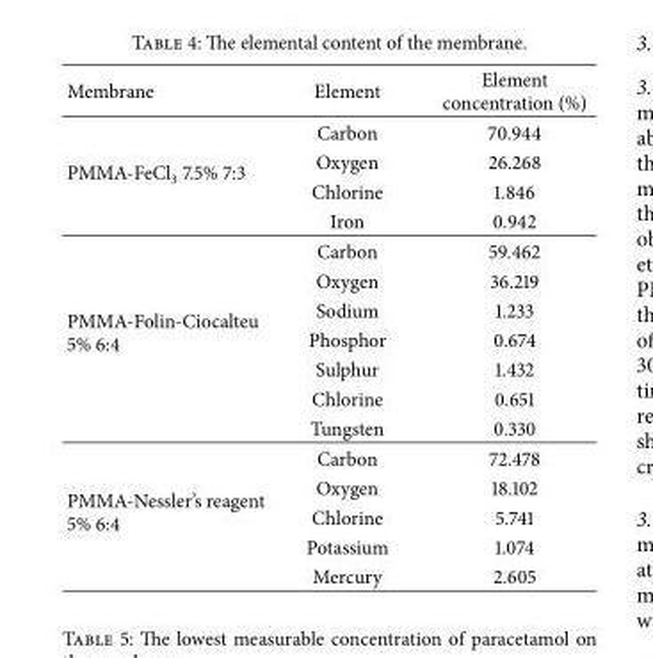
<table><thead><tr><td>Membrane</td><td>Element</td><td>Element concentration (%)</td></tr></thead><tbody><tr><td rowspan="4">PMMA-FeCl<sub>3</sub> 7.5% 7:3</td><td>Carbon</td><td>70.944</td></tr><tr><td>Oxygen</td><td>26.268</td></tr><tr><td>Chlorine</td><td>1.846</td></tr><tr><td>Iron</td><td>0.942</td></tr><tr><td rowspan="7">PMMA-Folin-Ciocalteu 5% 6:4</td><td>Carbon</td><td>59.462</td></tr><tr><td>Oxygen</td><td>36.219</td></tr><tr><td>Sodium</td><td>1.233</td></tr><tr><td>Phosphor</td><td>0.674</td></tr><tr><td>Sulphur</td><td>1.432</td></tr><tr><td>Chlorine</td><td>0.651</td></tr><tr><td>Tungsten</td><td>0.330</td></tr><tr><td rowspan="5">PMMA-Nessler’s reagent 5% 6:4</td><td>Carbon</td><td>72.478</td></tr><tr><td>Oxygen</td><td>18.102</td></tr><tr><td>Chlorine</td><td>5.741</td></tr><tr><td>Potassium</td><td>1.074</td></tr><tr><td>Mercury</td><td>2.605</td></tr></tbody></table>